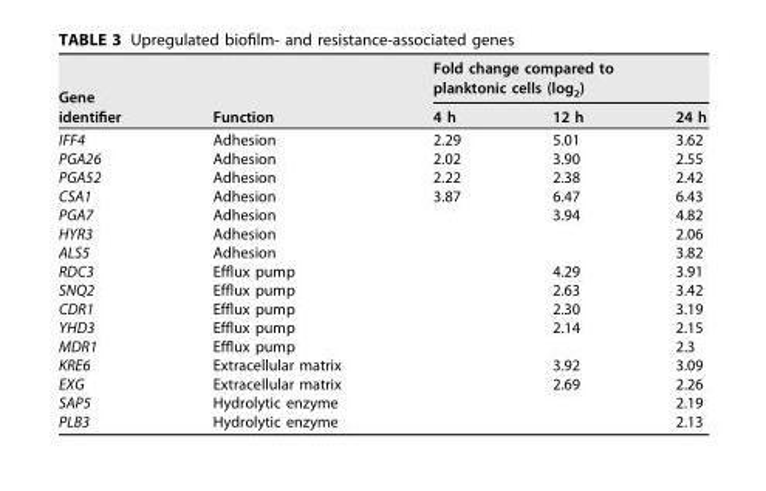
<table><thead><tr><td rowspan="2">Gene identifier</td><td rowspan="2">Function</td><td colspan="3">Fold change compared to planktonic cells (log<sub>2</sub>)</td></tr><tr><td>4 h</td><td>12 h</td><td>24 h</td></tr></thead><tbody><tr><td>IFF4</td><td>Adhesion</td><td>2.29</td><td>5.01</td><td>3.62</td></tr><tr><td>PGA26</td><td>Adhesion</td><td>2.02</td><td>3.90</td><td>2.55</td></tr><tr><td>PGA52</td><td>Adhesion</td><td>2.22</td><td>2.38</td><td>2.42</td></tr><tr><td>CSA1</td><td>Adhesion</td><td>3.87</td><td>6.47</td><td>6.43</td></tr><tr><td>PGA7</td><td>Adhesion</td><td></td><td>3.94</td><td>4.82</td></tr><tr><td>HYR3</td><td>Adhesion</td><td></td><td></td><td>2.06</td></tr><tr><td>ALS5</td><td>Adhesion</td><td></td><td></td><td>3.82</td></tr><tr><td>RDC3</td><td>Efflux pump</td><td></td><td>4.29</td><td>3.91</td></tr><tr><td>SNQ2</td><td>Efflux pump</td><td></td><td>2.63</td><td>3.42</td></tr><tr><td>CDR1</td><td>Efflux pump</td><td></td><td>2.30</td><td>3.19</td></tr><tr><td>YHD3</td><td>Efflux pump</td><td></td><td>2.14</td><td>2.15</td></tr><tr><td>MDR1</td><td>Efflux pump</td><td></td><td></td><td>2.3</td></tr><tr><td>KRE6</td><td>Extracellular matrix</td><td></td><td>3.92</td><td>3.09</td></tr><tr><td>EXG</td><td>Extracellular matrix</td><td></td><td>2.69</td><td>2.26</td></tr><tr><td>SAP5</td><td>Hydrolytic enzyme</td><td></td><td></td><td>2.19</td></tr><tr><td>PLB3</td><td>Hydrolytic enzyme</td><td></td><td></td><td>2.13</td></tr></tbody></table>